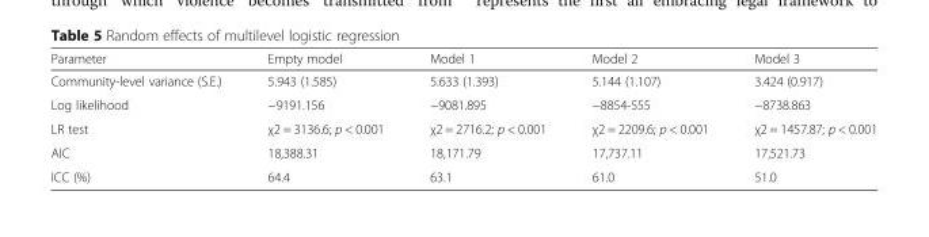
<table><thead><tr><td>Parameter</td><td>Empty model</td><td>Model 1</td><td>Model 2</td><td>Model 3</td></tr></thead><tbody><tr><td>Community-level variance (S.E.)</td><td>5.943 (1.585)</td><td>5.633 (1.393)</td><td>5.144 (1.107)</td><td>3.424 (0.917)</td></tr><tr><td>Log likelihood</td><td>−9191.156</td><td>−9081.895</td><td>−8854-555</td><td>−8738.863</td></tr><tr><td>LR test</td><td>χ2 = 3136.6; p &lt; 0.001</td><td>χ2 = 2716.2; p &lt; 0.001</td><td>χ2 = 2209.6; p &lt; 0.001</td><td>χ2 = 1457.87; p &lt; 0.001</td></tr><tr><td>AIC</td><td>18,388.31</td><td>18,171.79</td><td>17,737.11</td><td>17,521.73</td></tr><tr><td>ICC (%)</td><td>64.4</td><td>63.1</td><td>61.0</td><td>51.0</td></tr></tbody></table>